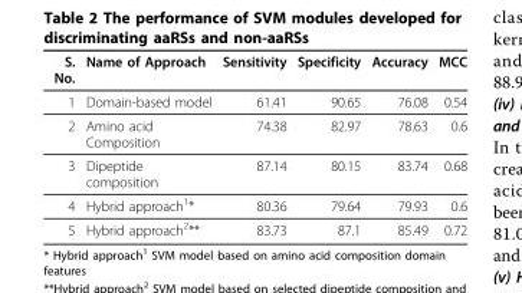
<table><thead><tr><td>S. No.</td><td>Name of Approach</td><td>Sensitivity</td><td>Specificity</td><td>Accuracy</td><td>MCC</td></tr></thead><tbody><tr><td>1</td><td>Domain-based model</td><td>61.41</td><td>90.65</td><td>76.08</td><td>0.54</td></tr><tr><td>2</td><td>Amino acid Composition</td><td>74.38</td><td>82.97</td><td>78.63</td><td>0.6</td></tr><tr><td>3</td><td>Dipeptide composition</td><td>87.14</td><td>80.15</td><td>83.74</td><td>0.68</td></tr><tr><td>4</td><td>Hybrid approach<sup>1</sup>*</td><td>80.36</td><td>79.64</td><td>79.93</td><td>0.6</td></tr><tr><td>5</td><td>Hybrid approach<sup>2</sup>**</td><td>83.73</td><td>87.1</td><td>85.49</td><td>0.72</td></tr></tbody></table>